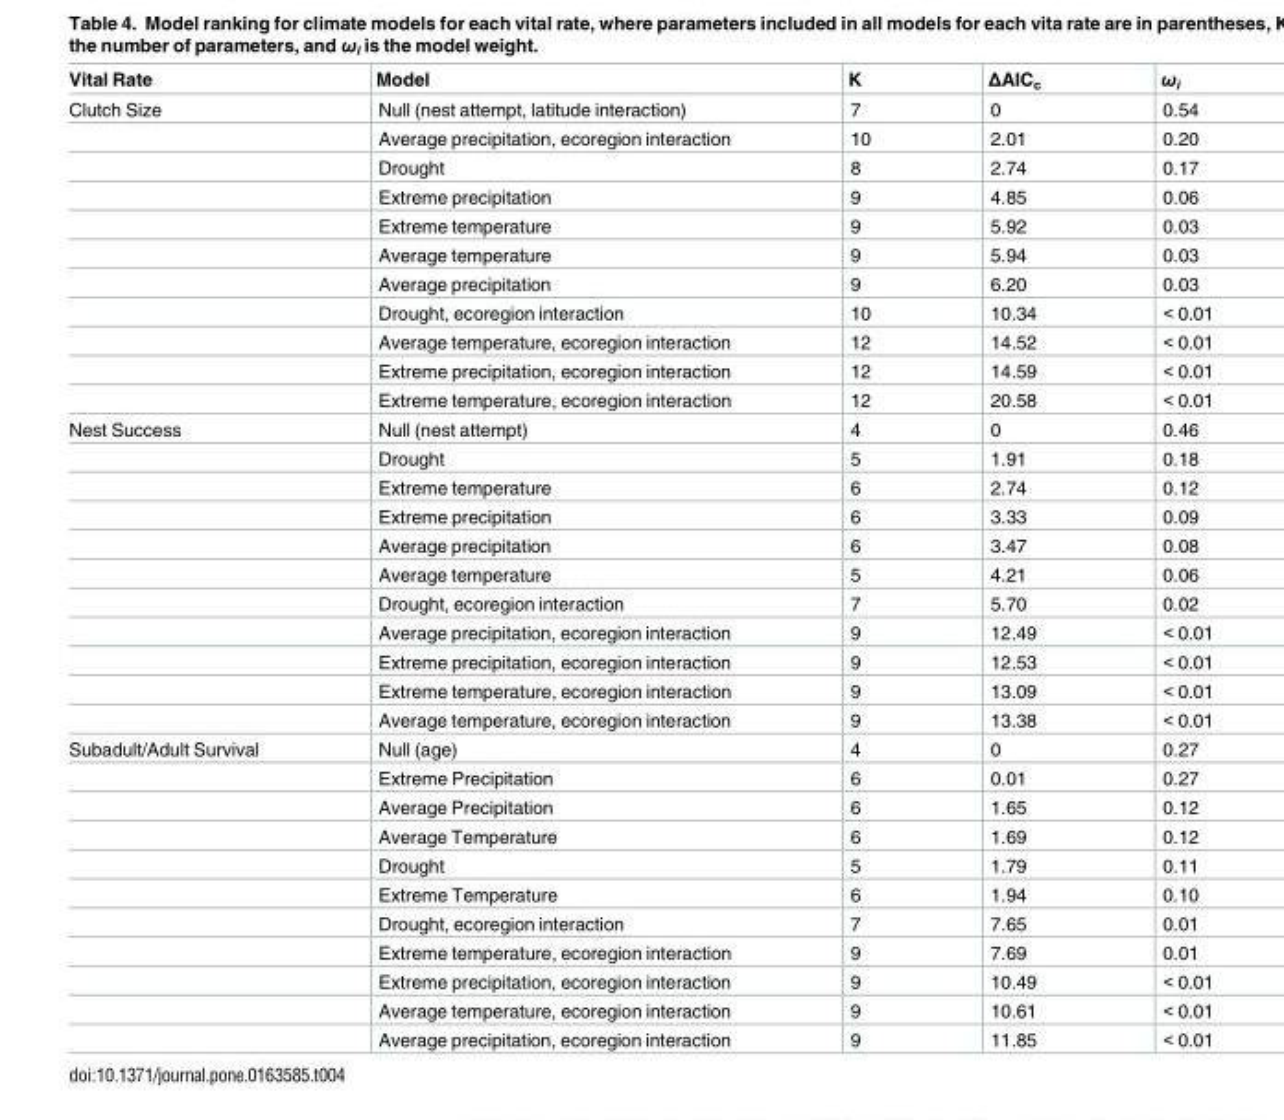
<table><thead><tr><td>Vital Rate</td><td>Model</td><td>K</td><td>ΔAIC<sub>c</sub></td><td>ω<sub>i</sub></td></tr></thead><tbody><tr><td rowspan="11">Clutch Size</td><td>Null (nest attempt, latitude interaction)</td><td>7</td><td>0</td><td>0.54</td></tr><tr><td>Average precipitation, ecoregion interaction</td><td>10</td><td>2.01</td><td>0.20</td></tr><tr><td>Drought</td><td>8</td><td>2.74</td><td>0.17</td></tr><tr><td>Extreme precipitation</td><td>9</td><td>4.85</td><td>0.06</td></tr><tr><td>Extreme temperature</td><td>9</td><td>5.92</td><td>0.03</td></tr><tr><td>Average temperature</td><td>9</td><td>5.94</td><td>0.03</td></tr><tr><td>Average precipitation</td><td>9</td><td>6.20</td><td>0.03</td></tr><tr><td>Drought, ecoregion interaction</td><td>10</td><td>10.34</td><td>&lt; 0.01</td></tr><tr><td>Average temperature, ecoregion interaction</td><td>12</td><td>14.52</td><td>&lt; 0.01</td></tr><tr><td>Extreme precipitation, ecoregion interaction</td><td>12</td><td>14.59</td><td>&lt; 0.01</td></tr><tr><td>Extreme temperature, ecoregion interaction</td><td>12</td><td>20.58</td><td>&lt; 0.01</td></tr><tr><td rowspan="11">Nest Success</td><td>Null (nest attempt)</td><td>4</td><td>0</td><td>0.46</td></tr><tr><td>Drought</td><td>5</td><td>1.91</td><td>0.18</td></tr><tr><td>Extreme temperature</td><td>6</td><td>2.74</td><td>0.12</td></tr><tr><td>Extreme precipitation</td><td>6</td><td>3.33</td><td>0.09</td></tr><tr><td>Average precipitation</td><td>6</td><td>3.47</td><td>0.08</td></tr><tr><td>Average temperature</td><td>5</td><td>4.21</td><td>0.06</td></tr><tr><td>Drought, ecoregion interaction</td><td>7</td><td>5.70</td><td>0.02</td></tr><tr><td>Average precipitation, ecoregion interaction</td><td>9</td><td>12.49</td><td>&lt; 0.01</td></tr><tr><td>Extreme precipitation, ecoregion interaction</td><td>9</td><td>12.53</td><td>&lt; 0.01</td></tr><tr><td>Extreme temperature, ecoregion interaction</td><td>9</td><td>13.09</td><td>&lt; 0.01</td></tr><tr><td>Average temperature, ecoregion interaction</td><td>9</td><td>13.38</td><td>&lt; 0.01</td></tr><tr><td rowspan="11">Subadult/Adult Survival</td><td>Null (age)</td><td>4</td><td>0</td><td>0.27</td></tr><tr><td>Extreme Precipitation</td><td>6</td><td>0.01</td><td>0.27</td></tr><tr><td>Average Precipitation</td><td>6</td><td>1.65</td><td>0.12</td></tr><tr><td>Average Temperature</td><td>6</td><td>1.69</td><td>0.12</td></tr><tr><td>Drought</td><td>5</td><td>1.79</td><td>0.11</td></tr><tr><td>Extreme Temperature</td><td>6</td><td>1.94</td><td>0.10</td></tr><tr><td>Drought, ecoregion interaction</td><td>7</td><td>7.65</td><td>0.01</td></tr><tr><td>Extreme temperature, ecoregion interaction</td><td>9</td><td>7.69</td><td>0.01</td></tr><tr><td>Extreme precipitation, ecoregion interaction</td><td>9</td><td>10.49</td><td>&lt; 0.01</td></tr><tr><td>Average temperature, ecoregion interaction</td><td>9</td><td>10.61</td><td>&lt; 0.01</td></tr><tr><td>Average precipitation, ecoregion interaction</td><td>9</td><td>11.85</td><td>&lt; 0.01</td></tr></tbody></table>